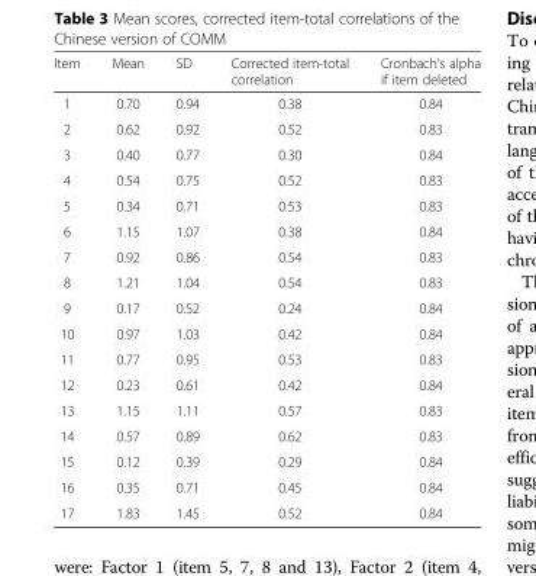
<table><thead><tr><td>Item</td><td>Mean</td><td>SD</td><td>Corrected item-total correlation</td><td>Cronbach’s alpha if item deleted</td></tr></thead><tbody><tr><td>1</td><td>0.70</td><td>0.94</td><td>0.38</td><td>0.84</td></tr><tr><td>2</td><td>0.62</td><td>0.92</td><td>0.52</td><td>0.83</td></tr><tr><td>3</td><td>0.40</td><td>0.77</td><td>0.30</td><td>0.84</td></tr><tr><td>4</td><td>0.54</td><td>0.75</td><td>0.52</td><td>0.83</td></tr><tr><td>5</td><td>0.34</td><td>0.71</td><td>0.53</td><td>0.83</td></tr><tr><td>6</td><td>1.15</td><td>1.07</td><td>0.38</td><td>0.84</td></tr><tr><td>7</td><td>0.92</td><td>0.86</td><td>0.54</td><td>0.83</td></tr><tr><td>8</td><td>1.21</td><td>1.04</td><td>0.54</td><td>0.83</td></tr><tr><td>9</td><td>0.17</td><td>0.52</td><td>0.24</td><td>0.84</td></tr><tr><td>10</td><td>0.97</td><td>1.03</td><td>0.42</td><td>0.84</td></tr><tr><td>11</td><td>0.77</td><td>0.95</td><td>0.53</td><td>0.83</td></tr><tr><td>12</td><td>0.23</td><td>0.61</td><td>0.42</td><td>0.84</td></tr><tr><td>13</td><td>1.15</td><td>1.11</td><td>0.57</td><td>0.83</td></tr><tr><td>14</td><td>0.57</td><td>0.89</td><td>0.62</td><td>0.83</td></tr><tr><td>15</td><td>0.12</td><td>0.39</td><td>0.29</td><td>0.84</td></tr><tr><td>16</td><td>0.35</td><td>0.71</td><td>0.45</td><td>0.84</td></tr><tr><td>17</td><td>1.83</td><td>1.45</td><td>0.52</td><td>0.84</td></tr></tbody></table>